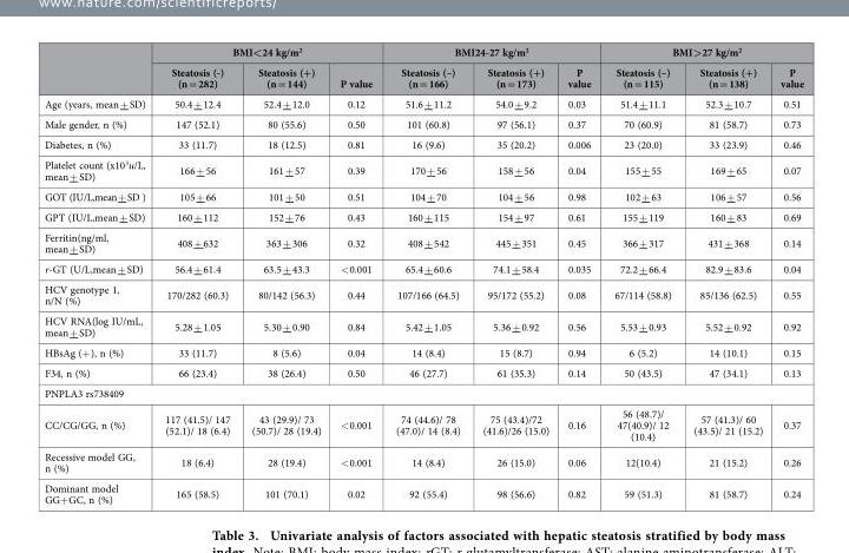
<table><thead><tr><td rowspan="2"></td><td colspan="3">BMI&lt;24 kg/m<sup>2</sup></td><td colspan="3">BMI24-27 kg/m<sup>2</sup></td><td colspan="3">BMI&gt;27 kg/m<sup>2</sup></td></tr><tr><td>Steatosis (-) (n = 282)</td><td>Steatosis (+) (n = 144)</td><td>P value</td><td>Steatosis (–) (n = 166)</td><td>Steatosis (+) (n = 173)</td><td>P value</td><td>Steatosis (–) (n = 115)</td><td>Steatosis (+) (n = 138)</td><td>P value</td></tr></thead><tbody><tr><td>Age (years, mean + SD)</td><td>50.4 + 12.4</td><td>52.4 + 12.0</td><td>0.12</td><td>51.6 + 11.2</td><td>54.0 + 9.2</td><td>0.03</td><td>51.4 + 11.1</td><td>52.3 + 10.7</td><td>0.51</td></tr><tr><td>Male gender, n (%)</td><td>147 (52.1)</td><td>80 (55.6)</td><td>0.50</td><td>101 (60.8)</td><td>97 (56.1)</td><td>0.37</td><td>70 (60.9)</td><td>81 (58.7)</td><td>0.73</td></tr><tr><td>Diabetes, n (%)</td><td>33 (11.7)</td><td>18 (12.5)</td><td>0.81</td><td>16 (9.6)</td><td>35 (20.2)</td><td>0.006</td><td>23 (20.0)</td><td>33 (23.9)</td><td>0.46</td></tr><tr><td>Platelet count (x10<sup>3</sup>u/L, mean + SD)</td><td>166 + 56</td><td>161 + 57</td><td>0.39</td><td>170 + 56</td><td>158 + 56</td><td>0.04</td><td>155 + 55</td><td>169 + 65</td><td>0.07</td></tr><tr><td>GOT (IU/L,mean + SD )</td><td>105 + 66</td><td>101 + 50</td><td>0.51</td><td>104 + 70</td><td>104 + 56</td><td>0.98</td><td>102 + 63</td><td>106 + 57</td><td>0.56</td></tr><tr><td>GPT (IU/L,mean + SD)</td><td>160 + 112</td><td>152 + 76</td><td>0.43</td><td>160 + 115</td><td>154 + 97</td><td>0.61</td><td>155 + 119</td><td>160 + 83</td><td>0.69</td></tr><tr><td>Ferritin(ng/ml, mean + SD)</td><td>408 + 632</td><td>363 + 306</td><td>0.32</td><td>408 + 542</td><td>445 + 351</td><td>0.45</td><td>366 + 317</td><td>431 + 368</td><td>0.14</td></tr><tr><td>r-GT (U/L,mean + SD)</td><td>56.4 + 61.4</td><td>63.5 + 43.3</td><td>&lt; 0.001</td><td>65.4 + 60.6</td><td>74.1 + 58.4</td><td>0.035</td><td>72.2 + 66.4</td><td>82.9 + 83.6</td><td>0.04</td></tr><tr><td>HCV genotype 1, n/N (%)</td><td>170/282 (60.3)</td><td>80/142 (56.3)</td><td>0.44</td><td>107/166 (64.5)</td><td>95/172 (55.2)</td><td>0.08</td><td>67/114 (58.8)</td><td>85/136 (62.5)</td><td>0.55</td></tr><tr><td>HCV RNA(log IU/mL, mean + SD)</td><td>5.28 + 1.05</td><td>5.30 + 0.90</td><td>0.84</td><td>5.42 + 1.05</td><td>5.36 + 0.92</td><td>0.56</td><td>5.53 + 0.93</td><td>5.52 + 0.92</td><td>0.92</td></tr><tr><td>HBsAg (+ ), n (%)</td><td>33 (11.7)</td><td>8 (5.6)</td><td>0.04</td><td>14 (8.4)</td><td>15 (8.7)</td><td>0.94</td><td>6 (5.2)</td><td>14 (10.1)</td><td>0.15</td></tr><tr><td>F34, n (%)</td><td>66 (23.4)</td><td>38 (26.4)</td><td>0.50</td><td>46 (27.7)</td><td>61 (35.3)</td><td>0.14</td><td>50 (43.5)</td><td>47 (34.1)</td><td>0.13</td></tr><tr><td colspan="10">PNPLA3 rs738409</td></tr><tr><td>CC/CG/GG, n (%)</td><td>117 (41.5)/ 147 (52.1)/ 18 (6.4)</td><td>43 (29.9)/ 73 (50.7)/ 28 (19.4)</td><td>&lt; 0.001</td><td>74 (44.6)/ 78 (47.0)/ 14 (8.4)</td><td>75 (43.4)/72 (41.6)/26 (15.0)</td><td>0.16</td><td>56 (48.7)/ 47(40.9)/ 12 (10.4)</td><td>57 (41.3)/ 60 (43.5)/ 21 (15.2)</td><td>0.37</td></tr><tr><td>Recessive model GG, n (%)</td><td>18 (6.4)</td><td>28 (19.4)</td><td>&lt; 0.001</td><td>14 (8.4)</td><td>26 (15.0)</td><td>0.06</td><td>12(10.4)</td><td>21 (15.2)</td><td>0.26</td></tr><tr><td>Dominant model GG+ GC, n (%)</td><td>165 (58.5)</td><td>101 (70.1)</td><td>0.02</td><td>92 (55.4)</td><td>98 (56.6)</td><td>0.82</td><td>59 (51.3)</td><td>81 (58.7)</td><td>0.24</td></tr></tbody></table>